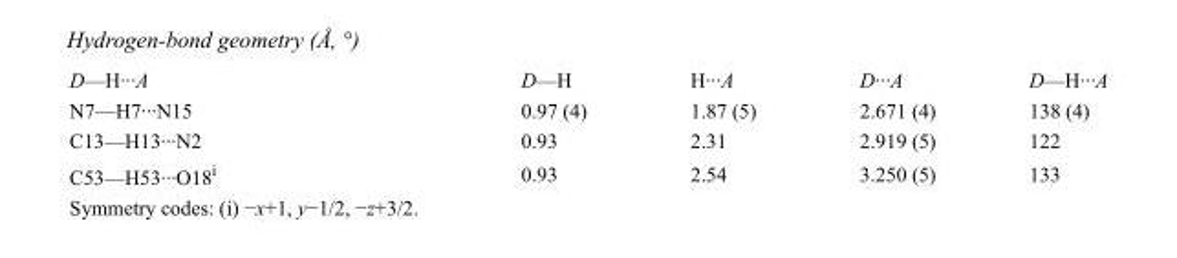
<table><tbody><tr><td>D—H···A</td><td>D—H</td><td>H···A</td><td>D···A</td><td>D—H···A</td></tr><tr><td>N7—H7···N15</td><td>0.97 (4)</td><td>1.87 (5)</td><td>2.671 (4)</td><td>138 (4)</td></tr><tr><td>C13—H13···N2</td><td>0.93</td><td>2.31</td><td>2.919 (5)</td><td>122</td></tr><tr><td>C53—H53···O18<sup>i</sup></td><td>0.93</td><td>2.54</td><td>3.250 (5)</td><td>133</td></tr></tbody></table>